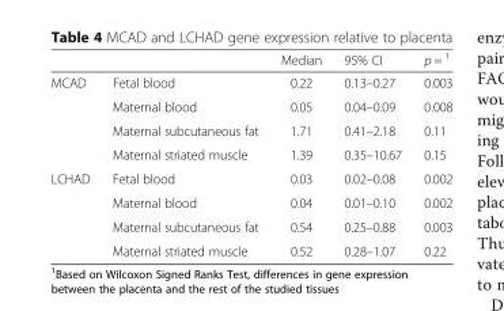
<table><thead><tr><td></td><td></td><td>Median</td><td>95% CI</td><td>p = <sup>1</sup></td></tr></thead><tbody><tr><td rowspan="4">MCAD</td><td>Fetal blood</td><td>0.22</td><td>0.13–0.27</td><td>0.003</td></tr><tr><td>Maternal blood</td><td>0.05</td><td>0.04–0.09</td><td>0.008</td></tr><tr><td>Maternal subcutaneous fat</td><td>1.71</td><td>0.41–2.18</td><td>0.11</td></tr><tr><td>Maternal striated muscle</td><td>1.39</td><td>0.35–10.67</td><td>0.15</td></tr><tr><td rowspan="4">LCHAD</td><td>Fetal blood</td><td>0.03</td><td>0.02–0.08</td><td>0.002</td></tr><tr><td>Maternal blood</td><td>0.04</td><td>0.01–0.10</td><td>0.002</td></tr><tr><td>Maternal subcutaneous fat</td><td>0.54</td><td>0.25–0.88</td><td>0.003</td></tr><tr><td>Maternal striated muscle</td><td>0.52</td><td>0.28–1.07</td><td>0.22</td></tr></tbody></table>